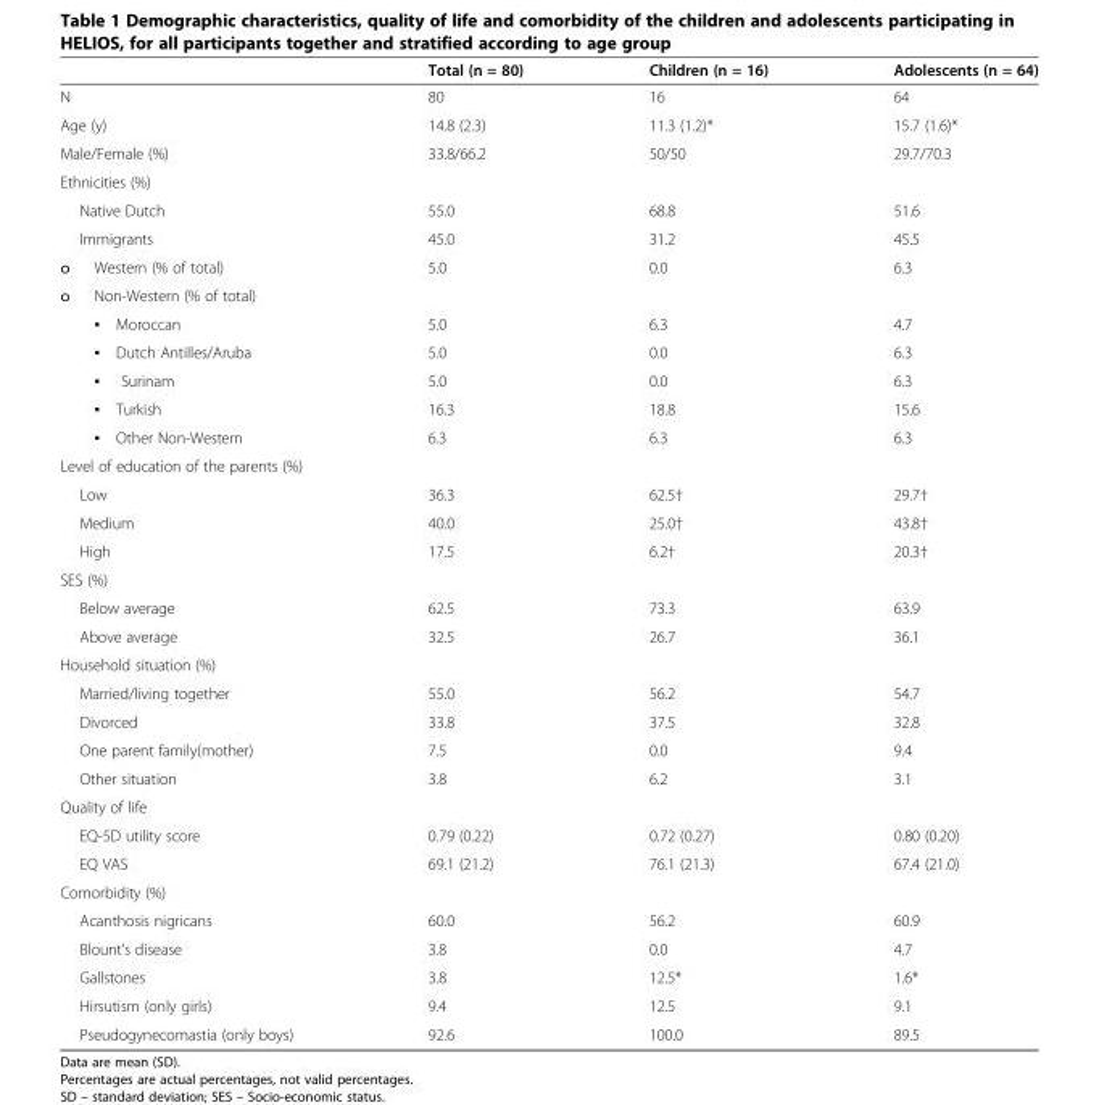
<table><thead><tr><td></td><td>Total (n = 80)</td><td>Children (n = 16)</td><td>Adolescents (n = 64)</td></tr></thead><tbody><tr><td>N</td><td>80</td><td>16</td><td>64</td></tr><tr><td>Age (y)</td><td>14.8 (2.3)</td><td>11.3 (1.2)*</td><td>15.7 (1.6)*</td></tr><tr><td>Male/Female (%)</td><td>33.8/66.2</td><td>50/50</td><td>29.7/70.3</td></tr><tr><td colspan="4">Ethnicities (%)</td></tr><tr><td>Native Dutch</td><td>55.0</td><td>68.8</td><td>51.6</td></tr><tr><td>Immigrants</td><td>45.0</td><td>31.2</td><td>45.5</td></tr><tr><td>o Western (% of total)</td><td>5.0</td><td>0.0</td><td>6.3</td></tr><tr><td colspan="4">o Non-Western (% of total)</td></tr><tr><td>▪ Moroccan</td><td>5.0</td><td>6.3</td><td>4.7</td></tr><tr><td>▪ Dutch Antilles/Aruba</td><td>5.0</td><td>0.0</td><td>6.3</td></tr><tr><td>▪ Surinam</td><td>5.0</td><td>0.0</td><td>6.3</td></tr><tr><td>▪ Turkish</td><td>16.3</td><td>18.8</td><td>15.6</td></tr><tr><td>▪ Other Non-Western</td><td>6.3</td><td>6.3</td><td>6.3</td></tr><tr><td colspan="4">Level of education of the parents (%)</td></tr><tr><td>Low</td><td>36.3</td><td>62.5†</td><td>29.7†</td></tr><tr><td>Medium</td><td>40.0</td><td>25.0†</td><td>43.8†</td></tr><tr><td>High</td><td>17.5</td><td>6.2†</td><td>20.3†</td></tr><tr><td colspan="4">SES (%)</td></tr><tr><td>Below average</td><td>62.5</td><td>73.3</td><td>63.9</td></tr><tr><td>Above average</td><td>32.5</td><td>26.7</td><td>36.1</td></tr><tr><td colspan="4">Household situation (%)</td></tr><tr><td>Married/living together</td><td>55.0</td><td>56.2</td><td>54.7</td></tr><tr><td>Divorced</td><td>33.8</td><td>37.5</td><td>32.8</td></tr><tr><td>One parent family(mother)</td><td>7.5</td><td>0.0</td><td>9.4</td></tr><tr><td>Other situation</td><td>3.8</td><td>6.2</td><td>3.1</td></tr><tr><td colspan="4">Quality of life</td></tr><tr><td>EQ-5D utility score</td><td>0.79 (0.22)</td><td>0.72 (0.27)</td><td>0.80 (0.20)</td></tr><tr><td>EQ VAS</td><td>69.1 (21.2)</td><td>76.1 (21.3)</td><td>67.4 (21.0)</td></tr><tr><td colspan="4">Comorbidity (%)</td></tr><tr><td>Acanthosis nigricans</td><td>60.0</td><td>56.2</td><td>60.9</td></tr><tr><td>Blount’s disease</td><td>3.8</td><td>0.0</td><td>4.7</td></tr><tr><td>Gallstones</td><td>3.8</td><td>12.5*</td><td>1.6*</td></tr><tr><td>Hirsutism (only girls)</td><td>9.4</td><td>12.5</td><td>9.1</td></tr><tr><td>Pseudogynecomastia (only boys)</td><td>92.6</td><td>100.0</td><td>89.5</td></tr></tbody></table>